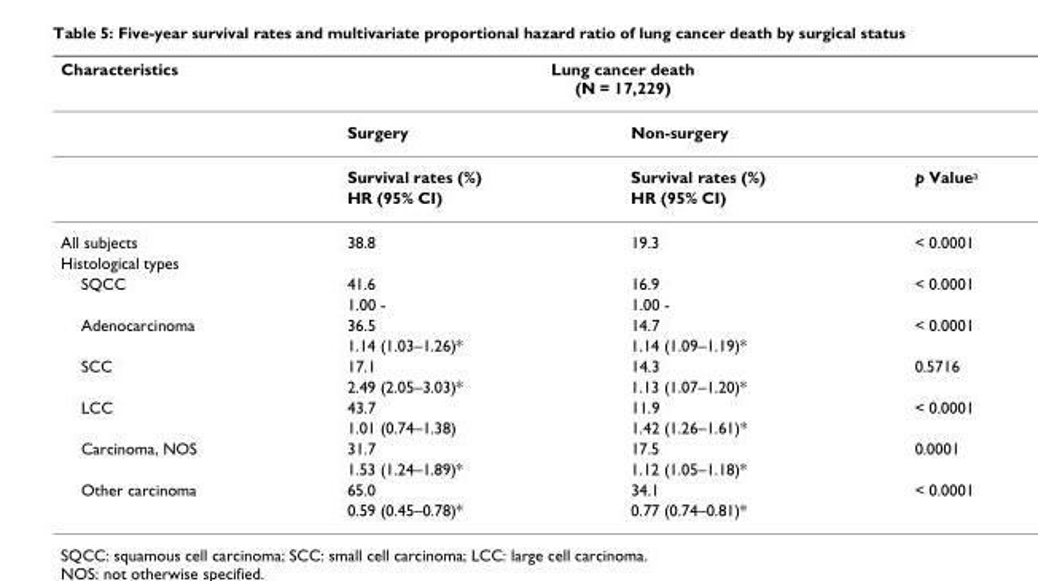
<table><thead><tr><td rowspan="2">Characteristics</td><td colspan="2">Lung cancer death (N = 17,229)</td><td rowspan="2"></td></tr><tr><td>Surgery</td><td>Non-surgery</td></tr></thead><tbody><tr><td></td><td>Survival rates (%)</td><td>Survival rates (%)</td><td>p Value<sup>a</sup></td></tr><tr><td></td><td>HR (95% CI)</td><td>HR (95% CI)</td><td></td></tr><tr><td>All subjects</td><td>38.8</td><td>19.3</td><td>&lt; 0.0001</td></tr><tr><td colspan="4">Histological types</td></tr><tr><td rowspan="2">SQCC</td><td>41.6</td><td>16.9</td><td>&lt; 0.0001</td></tr><tr><td>1.00 -</td><td>1.00 -</td><td></td></tr><tr><td rowspan="2">Adenocarcinoma</td><td>36.5</td><td>14.7</td><td>&lt; 0.0001</td></tr><tr><td>1.14 (1.03–1.26)*</td><td>1.14 (1.09–1.19)*</td><td></td></tr><tr><td rowspan="2">SCC</td><td>17.1</td><td>14.3</td><td>0.5716</td></tr><tr><td>2.49 (2.05–3.03)*</td><td>1.13 (1.07–1.20)*</td><td></td></tr><tr><td rowspan="2">LCC</td><td>43.7</td><td>11.9</td><td>&lt; 0.0001</td></tr><tr><td>1.01 (0.74–1.38)</td><td>1.42 (1.26–1.61)*</td><td></td></tr><tr><td rowspan="2">Carcinoma, NOS</td><td>31.7</td><td>17.5</td><td>0.0001</td></tr><tr><td>1.53 (1.24–1.89)*</td><td>1.12 (1.05–1.18)*</td><td></td></tr><tr><td rowspan="2">Other carcinoma</td><td>65.0</td><td>34.1</td><td>&lt; 0.0001</td></tr><tr><td>0.59 (0.45–0.78)*</td><td>0.77 (0.74–0.81)*</td><td></td></tr></tbody></table>